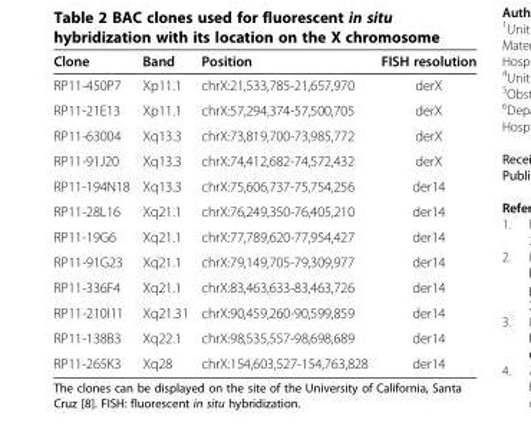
<table><thead><tr><td>Clone</td><td>Band</td><td>Position</td><td>FISH resolution</td></tr></thead><tbody><tr><td>RP11-450P7</td><td>Xp11.1</td><td>chrX:21,533,785-21,657,970</td><td>derX</td></tr><tr><td>RP11-21E13</td><td>Xp11.1</td><td>chrX:57,294,374-57,500,705</td><td>derX</td></tr><tr><td>RP11-63004</td><td>Xq13.3</td><td>chrX:73,819,700-73,985,772</td><td>derX</td></tr><tr><td>RP11-91J20</td><td>Xq13.3</td><td>chrX:74,412,682-74,572,432</td><td>derX</td></tr><tr><td>RP11-194N18</td><td>Xq13.3</td><td>chrX:75,606,737-75,754,256</td><td>der14</td></tr><tr><td>RP11-28L16</td><td>Xq21.1</td><td>chrX:76,249,350-76,405,210</td><td>der14</td></tr><tr><td>RP11-19G6</td><td>Xq21.1</td><td>chrX:77,789,620-77,954,427</td><td>der14</td></tr><tr><td>RP11-91G23</td><td>Xq21.1</td><td>chrX:79,149,705-79,309,977</td><td>der14</td></tr><tr><td>RP11-336F4</td><td>Xq21.1</td><td>chrX:83,463,633-83,463,726</td><td>der14</td></tr><tr><td>RP11-210I11</td><td>Xq21.31</td><td>chrX:90,459,260-90,599,859</td><td>der14</td></tr><tr><td>RP11-138B3</td><td>Xq22.1</td><td>chrX:98,535,557-98,698,689</td><td>der14</td></tr><tr><td>RP11-265K3</td><td>Xq28</td><td>chrX:154,603,527-154,763,828</td><td>der14</td></tr></tbody></table>